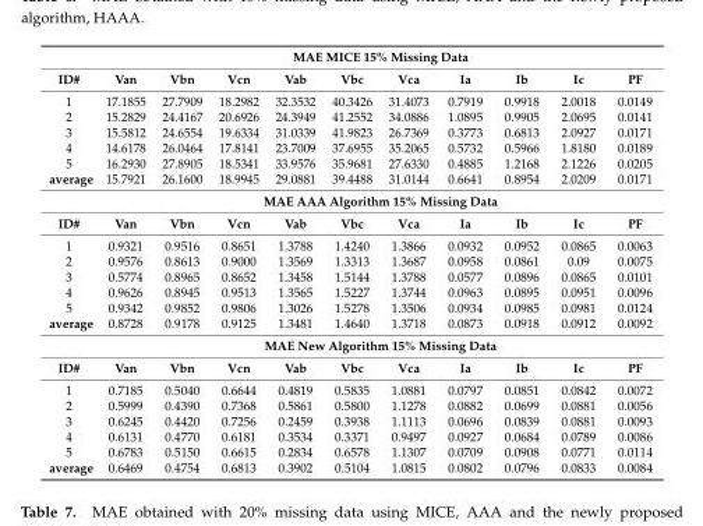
<table><thead><tr><td rowspan="2">ID#</td><td colspan="10">MAE MICE 15% Missing Data</td></tr><tr><td>Van</td><td>Vbn</td><td>Vcn</td><td>Vab</td><td>Vbc</td><td>Vca</td><td>Ia</td><td>Ib</td><td>Ic</td><td>PF</td></tr></thead><tbody><tr><td>1</td><td>17.1855</td><td>27.7909</td><td>18.2982</td><td>32.3532</td><td>40.3426</td><td>31.4073</td><td>0.7919</td><td>0.9918</td><td>2.0018</td><td>0.0149</td></tr><tr><td>2</td><td>15.2829</td><td>24.4167</td><td>20.6926</td><td>24.3949</td><td>41.2552</td><td>34.0886</td><td>1.0895</td><td>0.9905</td><td>2.0695</td><td>0.0141</td></tr><tr><td>3</td><td>15.5812</td><td>24.6554</td><td>19.6334</td><td>31.0339</td><td>41.9823</td><td>26.7369</td><td>0.3773</td><td>0.6813</td><td>2.0927</td><td>0.0171</td></tr><tr><td>4</td><td>14.6178</td><td>26.0464</td><td>17.8141</td><td>23.7009</td><td>37.6955</td><td>35.2065</td><td>0.5732</td><td>0.5966</td><td>1.8180</td><td>0.0189</td></tr><tr><td>5</td><td>16.2930</td><td>27.8905</td><td>18.5341</td><td>33.9576</td><td>35.9681</td><td>27.6330</td><td>0.4885</td><td>1.2168</td><td>2.1226</td><td>0.0205</td></tr><tr><td rowspan="2">average</td><td>15.7921</td><td>26.1600</td><td>18.9945</td><td>29.0881</td><td>39.4488</td><td>31.0144</td><td>0.6641</td><td>0.8954</td><td>2.0209</td><td>0.0171</td></tr><tr><td colspan="10">MAE AAA Algorithm 15% Missing Data</td></tr><tr><td>ID#</td><td>Van</td><td>Vbn</td><td>Vcn</td><td>Vab</td><td>Vbc</td><td>Vca</td><td>Ia</td><td>Ib</td><td>Ic</td><td>PF</td></tr><tr><td>1</td><td>0.9321</td><td>0.9516</td><td>0.8651</td><td>1.3788</td><td>1.4240</td><td>1.3866</td><td>0.0932</td><td>0.0952</td><td>0.0865</td><td>0.0063</td></tr><tr><td>2</td><td>0.9576</td><td>0.8613</td><td>0.9000</td><td>1.3569</td><td>1.3313</td><td>1.3687</td><td>0.0958</td><td>0.0861</td><td>0.09</td><td>0.0075</td></tr><tr><td>3</td><td>0.5774</td><td>0.8965</td><td>0.8652</td><td>1.3458</td><td>1.5144</td><td>1.3788</td><td>0.0577</td><td>0.0896</td><td>0.0865</td><td>0.0101</td></tr><tr><td>4</td><td>0.9626</td><td>0.8945</td><td>0.9513</td><td>1.3565</td><td>1.5227</td><td>1.3744</td><td>0.0963</td><td>0.0895</td><td>0.0951</td><td>0.0096</td></tr><tr><td>5</td><td>0.9342</td><td>0.9852</td><td>0.9806</td><td>1.3026</td><td>1.5278</td><td>1.3506</td><td>0.0934</td><td>0.0985</td><td>0.0981</td><td>0.0124</td></tr><tr><td rowspan="2">average</td><td>0.8728</td><td>0.9178</td><td>0.9125</td><td>1.3481</td><td>1.4640</td><td>1.3718</td><td>0.0873</td><td>0.0918</td><td>0.0912</td><td>0.0092</td></tr><tr><td colspan="10">MAE New Algorithm 15% Missing Data</td></tr><tr><td>ID#</td><td>Van</td><td>Vbn</td><td>Vcn</td><td>Vab</td><td>Vbc</td><td>Vca</td><td>Ia</td><td>Ib</td><td>Ic</td><td>PF</td></tr><tr><td>1</td><td>0.7185</td><td>0.5040</td><td>0.6644</td><td>0.4819</td><td>0.5835</td><td>1.0881</td><td>0.0797</td><td>0.0851</td><td>0.0842</td><td>0.0072</td></tr><tr><td>2</td><td>0.5999</td><td>0.4390</td><td>0.7368</td><td>0.5861</td><td>0.5800</td><td>1.1278</td><td>0.0882</td><td>0.0699</td><td>0.0881</td><td>0.0056</td></tr><tr><td>3</td><td>0.6245</td><td>0.4420</td><td>0.7256</td><td>0.2459</td><td>0.3938</td><td>1.1113</td><td>0.0696</td><td>0.0839</td><td>0.0881</td><td>0.0093</td></tr><tr><td>4</td><td>0.6131</td><td>0.4770</td><td>0.6181</td><td>0.3534</td><td>0.3371</td><td>0.9497</td><td>0.0927</td><td>0.0684</td><td>0.0789</td><td>0.0086</td></tr><tr><td>5</td><td>0.6783</td><td>0.5150</td><td>0.6615</td><td>0.2834</td><td>0.6578</td><td>1.1307</td><td>0.0709</td><td>0.0908</td><td>0.0771</td><td>0.0114</td></tr><tr><td>average</td><td>0.6469</td><td>0.4754</td><td>0.6813</td><td>0.3902</td><td>0.5104</td><td>1.0815</td><td>0.0802</td><td>0.0796</td><td>0.0833</td><td>0.0084</td></tr></tbody></table>